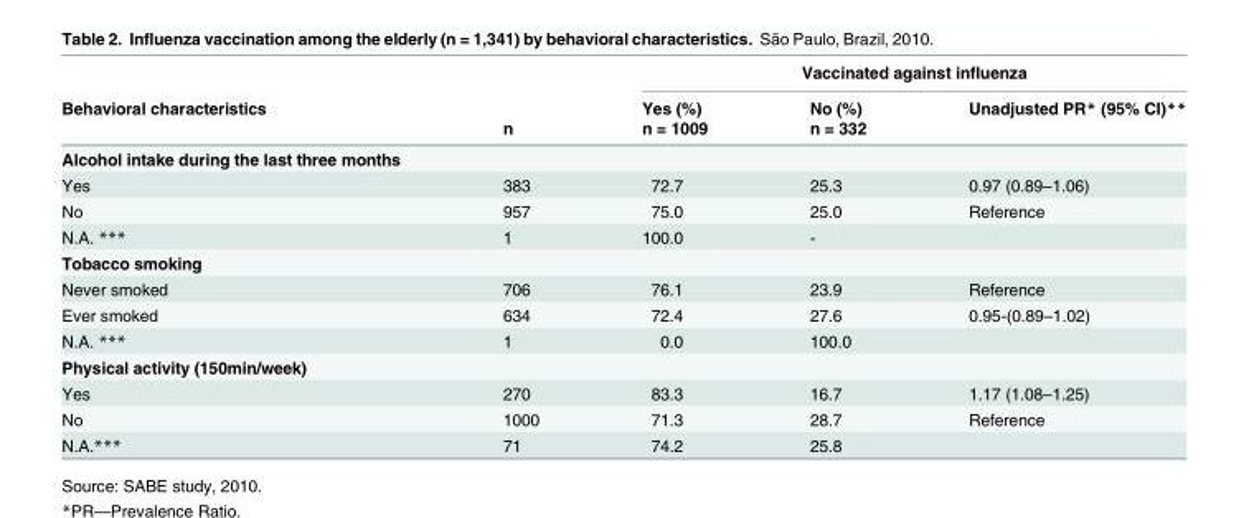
<table><thead><tr><td rowspan="3">Behavioral characteristics</td><td rowspan="3">n</td><td colspan="3">Vaccinated against influenza</td></tr><tr><td rowspan="2">Yes (%) n = 1009</td><td rowspan="2">No (%) n = 332</td><td rowspan="2">Unadjusted PR* (95% CI)**</td></tr><tr></tr></thead><tbody><tr><td colspan="5">Alcohol intake during the last three months</td></tr><tr><td>Yes</td><td>383</td><td>72.7</td><td>25.3</td><td>0.97 (0.89–1.06)</td></tr><tr><td>No</td><td>957</td><td>75.0</td><td>25.0</td><td>Reference</td></tr><tr><td>N.A. ***</td><td>1</td><td>100.0</td><td>-</td><td></td></tr><tr><td colspan="5">Tobacco smoking</td></tr><tr><td>Never smoked</td><td>706</td><td>76.1</td><td>23.9</td><td>Reference</td></tr><tr><td>Ever smoked</td><td>634</td><td>72.4</td><td>27.6</td><td>0.95-(0.89–1.02)</td></tr><tr><td>N.A. ***</td><td>1</td><td>0.0</td><td>100.0</td><td></td></tr><tr><td colspan="5">Physical activity (150min/week)</td></tr><tr><td>Yes</td><td>270</td><td>83.3</td><td>16.7</td><td>1.17 (1.08–1.25)</td></tr><tr><td>No</td><td>1000</td><td>71.3</td><td>28.7</td><td>Reference</td></tr><tr><td>N.A.***</td><td>71</td><td>74.2</td><td>25.8</td><td></td></tr></tbody></table>